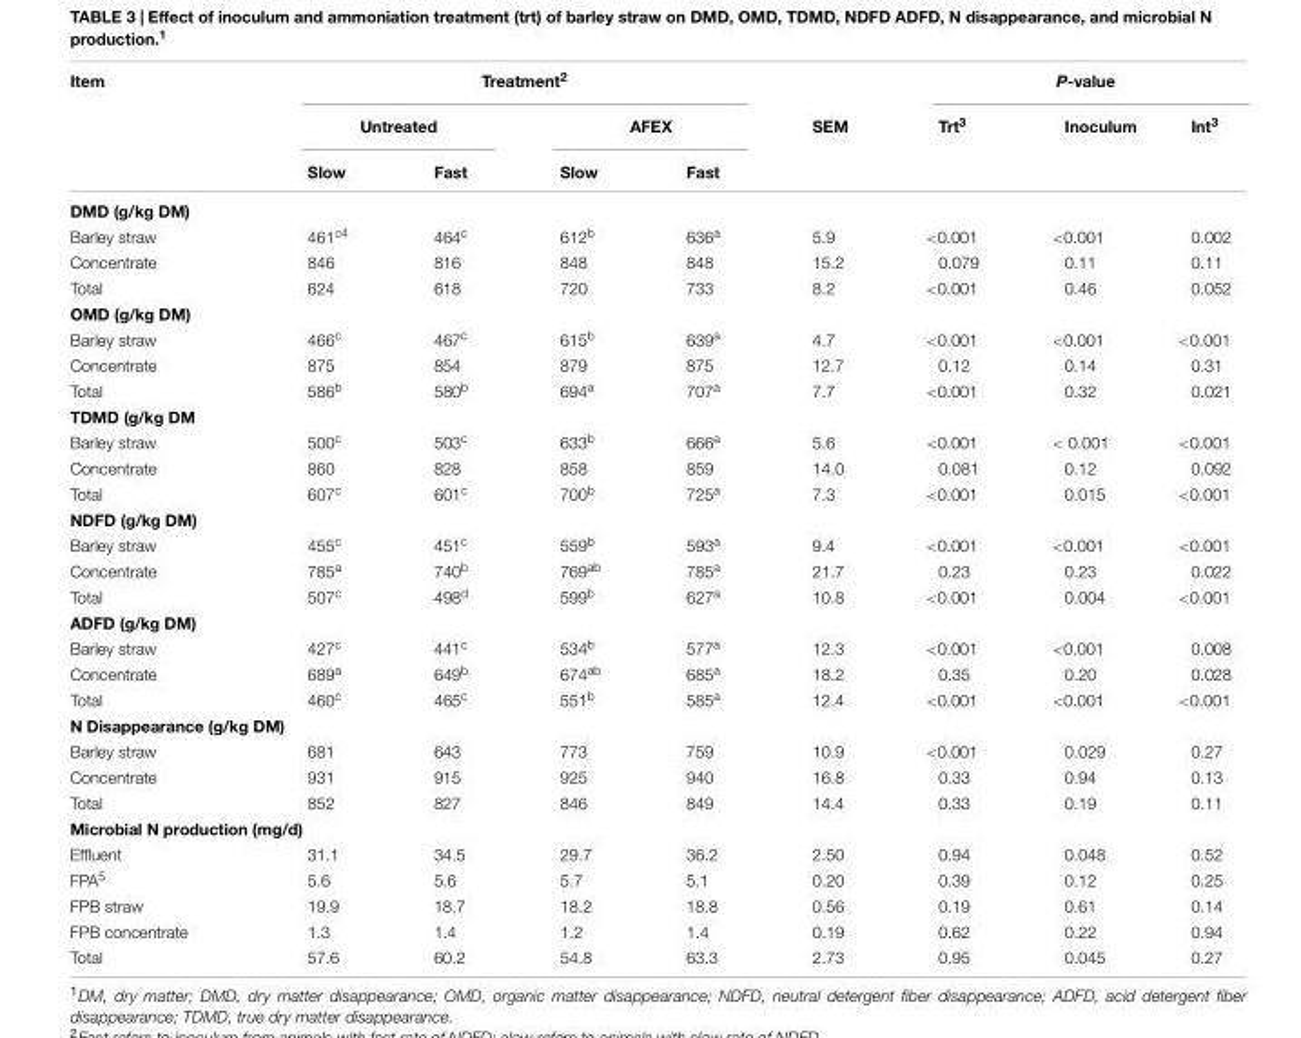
<table><thead><tr><td rowspan="3">Item</td><td colspan="4">Treatment<sup>2</sup></td><td rowspan="3">SEM</td><td colspan="3">P-value</td></tr><tr><td colspan="2">Untreated</td><td colspan="2">AFEX</td><td rowspan="2">Trt<sup>3</sup></td><td rowspan="2">Inoculum</td><td rowspan="2">Int<sup>3</sup></td></tr><tr><td>Slow</td><td>Fast</td><td>Slow</td><td>Fast</td></tr></thead><tbody><tr><td colspan="9">DMD (g/kg DM)</td></tr><tr><td>Barley straw</td><td>461<sup>c4</sup></td><td>464<sup>c</sup></td><td>612<sup>b</sup></td><td>636<sup>a</sup></td><td>5.9</td><td>&lt;0.001</td><td>&lt;0.001</td><td>0.002</td></tr><tr><td>Concentrate</td><td>846</td><td>816</td><td>848</td><td>848</td><td>15.2</td><td>0.079</td><td>0.11</td><td>0.11</td></tr><tr><td>Total</td><td>624</td><td>618</td><td>720</td><td>733</td><td>8.2</td><td>&lt;0.001</td><td>0.46</td><td>0.052</td></tr><tr><td colspan="9">OMD (g/kg DM)</td></tr><tr><td>Barley straw</td><td>466<sup>c</sup></td><td>467<sup>c</sup></td><td>615<sup>b</sup></td><td>639<sup>a</sup></td><td>4.7</td><td>&lt;0.001</td><td>&lt;0.001</td><td>&lt;0.001</td></tr><tr><td>Concentrate</td><td>875</td><td>854</td><td>879</td><td>875</td><td>12.7</td><td>0.12</td><td>0.14</td><td>0.31</td></tr><tr><td>Total</td><td>586<sup>b</sup></td><td>580<sup>b</sup></td><td>694<sup>a</sup></td><td>707<sup>a</sup></td><td>7.7</td><td>&lt;0.001</td><td>0.32</td><td>0.021</td></tr><tr><td colspan="9">TDMD (g/kg DM</td></tr><tr><td>Barley straw</td><td>500<sup>c</sup></td><td>503<sup>c</sup></td><td>633<sup>b</sup></td><td>666<sup>a</sup></td><td>5.6</td><td>&lt;0.001</td><td>&lt; 0.001</td><td>&lt;0.001</td></tr><tr><td>Concentrate</td><td>860</td><td>828</td><td>858</td><td>859</td><td>14.0</td><td>0.081</td><td>0.12</td><td>0.092</td></tr><tr><td>Total</td><td>607<sup>c</sup></td><td>601<sup>c</sup></td><td>700<sup>b</sup></td><td>725<sup>a</sup></td><td>7.3</td><td>&lt;0.001</td><td>0.015</td><td>&lt;0.001</td></tr><tr><td colspan="9">NDFD (g/kg DM)</td></tr><tr><td>Barley straw</td><td>455<sup>c</sup></td><td>451<sup>c</sup></td><td>559<sup>b</sup></td><td>593<sup>a</sup></td><td>9.4</td><td>&lt;0.001</td><td>&lt;0.001</td><td>&lt;0.001</td></tr><tr><td>Concentrate</td><td>785<sup>a</sup></td><td>740<sup>b</sup></td><td>769<sup>ab</sup></td><td>785<sup>a</sup></td><td>21.7</td><td>0.23</td><td>0.23</td><td>0.022</td></tr><tr><td>Total</td><td>507<sup>c</sup></td><td>498<sup>d</sup></td><td>599<sup>b</sup></td><td>627<sup>a</sup></td><td>10.8</td><td>&lt;0.001</td><td>0.004</td><td>&lt;0.001</td></tr><tr><td colspan="9">ADFD (g/kg DM)</td></tr><tr><td>Barley straw</td><td>427<sup>c</sup></td><td>441<sup>c</sup></td><td>534<sup>b</sup></td><td>577<sup>a</sup></td><td>12.3</td><td>&lt;0.001</td><td>&lt;0.001</td><td>0.008</td></tr><tr><td>Concentrate</td><td>689<sup>a</sup></td><td>649<sup>b</sup></td><td>674<sup>ab</sup></td><td>685<sup>a</sup></td><td>18.2</td><td>0.35</td><td>0.20</td><td>0.028</td></tr><tr><td>Total</td><td>460<sup>c</sup></td><td>465<sup>c</sup></td><td>551<sup>b</sup></td><td>585<sup>a</sup></td><td>12.4</td><td>&lt;0.001</td><td>&lt;0.001</td><td>&lt;0.001</td></tr><tr><td colspan="9">N Disappearance (g/kg DM)</td></tr><tr><td>Barley straw</td><td>681</td><td>643</td><td>773</td><td>759</td><td>10.9</td><td>&lt;0.001</td><td>0.029</td><td>0.27</td></tr><tr><td>Concentrate</td><td>931</td><td>915</td><td>925</td><td>940</td><td>16.8</td><td>0.33</td><td>0.94</td><td>0.13</td></tr><tr><td>Total</td><td>852</td><td>827</td><td>846</td><td>849</td><td>14.4</td><td>0.33</td><td>0.19</td><td>0.11</td></tr><tr><td colspan="9">Microbial N production (mg/d)</td></tr><tr><td>Effluent</td><td>31.1</td><td>34.5</td><td>29.7</td><td>36.2</td><td>2.50</td><td>0.94</td><td>0.048</td><td>0.52</td></tr><tr><td>FPA<sup>5</sup></td><td>5.6</td><td>5.6</td><td>5.7</td><td>5.1</td><td>0.20</td><td>0.39</td><td>0.12</td><td>0.25</td></tr><tr><td>FPB straw</td><td>19.9</td><td>18.7</td><td>18.2</td><td>18.8</td><td>0.56</td><td>0.19</td><td>0.61</td><td>0.14</td></tr><tr><td>FPB concentrate</td><td>1.3</td><td>1.4</td><td>1.2</td><td>1.4</td><td>0.19</td><td>0.62</td><td>0.22</td><td>0.94</td></tr><tr><td>Total</td><td>57.6</td><td>60.2</td><td>54.8</td><td>63.3</td><td>2.73</td><td>0.95</td><td>0.045</td><td>0.27</td></tr></tbody></table>